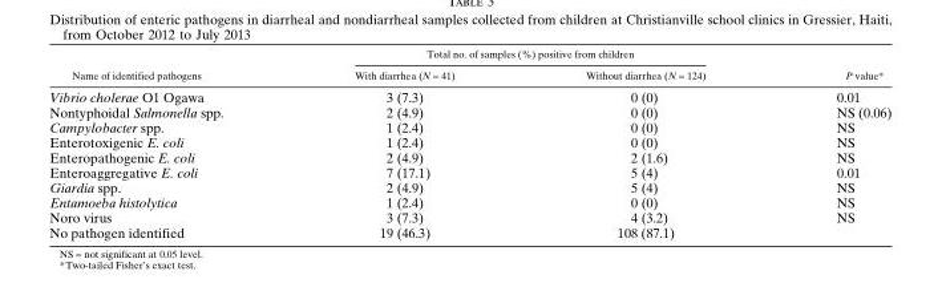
<table><thead><tr><td rowspan="2">Name of identified pathogens</td><td colspan="2">Total no. of samples (%) positive from children</td><td rowspan="2">P value*</td></tr><tr><td>With diarrhea (N = 41)</td><td>Without diarrhea (N = 124)</td></tr></thead><tbody><tr><td>Vibrio cholerae O1 Ogawa</td><td>3 (7.3)</td><td>0 (0)</td><td>0.01</td></tr><tr><td>Nontyphoidal Salmonella spp.</td><td>2 (4.9)</td><td>0 (0)</td><td>NS (0.06)</td></tr><tr><td>Campylobacter spp.</td><td>1 (2.4)</td><td>0 (0)</td><td>NS</td></tr><tr><td>Enterotoxigenic E. coli</td><td>1 (2.4)</td><td>0 (0)</td><td>NS</td></tr><tr><td>Enteropathogenic E. coli</td><td>2 (4.9)</td><td>2 (1.6)</td><td>NS</td></tr><tr><td>Enteroaggregative E. coli</td><td>7 (17.1)</td><td>5 (4)</td><td>0.01</td></tr><tr><td>Giardia spp.</td><td>2 (4.9)</td><td>5 (4)</td><td>NS</td></tr><tr><td>Entamoeba histolytica</td><td>1 (2.4)</td><td>0 (0)</td><td>NS</td></tr><tr><td>Noro virus</td><td>3 (7.3)</td><td>4 (3.2)</td><td>NS</td></tr><tr><td>No pathogen identified</td><td>19 (46.3)</td><td>108 (87.1)</td><td></td></tr></tbody></table>